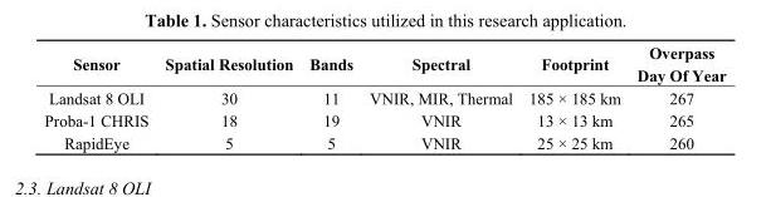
<table><thead><tr><td>Sensor</td><td>Spatial Resolution</td><td>Bands</td><td>Spectral</td><td>Footprint</td><td>Overpass Day Of Year</td></tr></thead><tbody><tr><td>Landsat 8 OLI</td><td>30</td><td>11</td><td>VNIR, MIR, Thermal</td><td>185 × 185 km</td><td>267</td></tr><tr><td>Proba-1 CHRIS</td><td>18</td><td>19</td><td>VNIR</td><td>13 × 13 km</td><td>265</td></tr><tr><td>RapidEye</td><td>5</td><td>5</td><td>VNIR</td><td>25 × 25 km</td><td>260</td></tr></tbody></table>